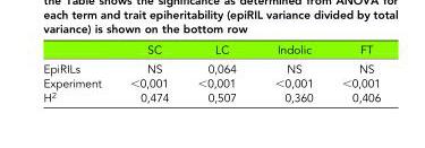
<table><thead><tr><td></td><td>SC</td><td>LC</td><td>Indolic</td><td>FT</td></tr></thead><tbody><tr><td>EpiRILs</td><td>NS</td><td>0,064</td><td>NS</td><td>NS</td></tr><tr><td>Experiment</td><td>&lt;0,001</td><td>&lt;0,001</td><td>&lt;0,001</td><td>&lt;0,001</td></tr><tr><td>H<sup>2</sup></td><td>0,474</td><td>0,507</td><td>0,360</td><td>0,406</td></tr></tbody></table>